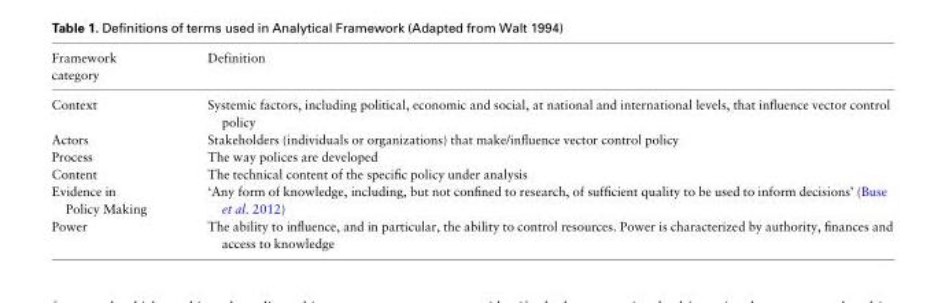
<table><thead><tr><td>Framework category</td><td>Definition</td></tr></thead><tbody><tr><td>Context</td><td>Systemic factors, including political, economic and social, at national and international levels, that influence vector control policy</td></tr><tr><td>Actors</td><td>Stakeholders (individuals or organizations) that make/influence vector control policy</td></tr><tr><td>Process</td><td>The way polices are developed</td></tr><tr><td>Content</td><td>The technical content of the specific policy under analysis</td></tr><tr><td>Evidence in Policy Making</td><td>‘Any form of knowledge, including, but not confined to research, of sufficient quality to be used to inform decisions’ (Buse et al. 2012)</td></tr><tr><td>Power</td><td>The ability to influence, and in particular, the ability to control resources. Power is characterized by authority, finances and access to knowledge</td></tr></tbody></table>